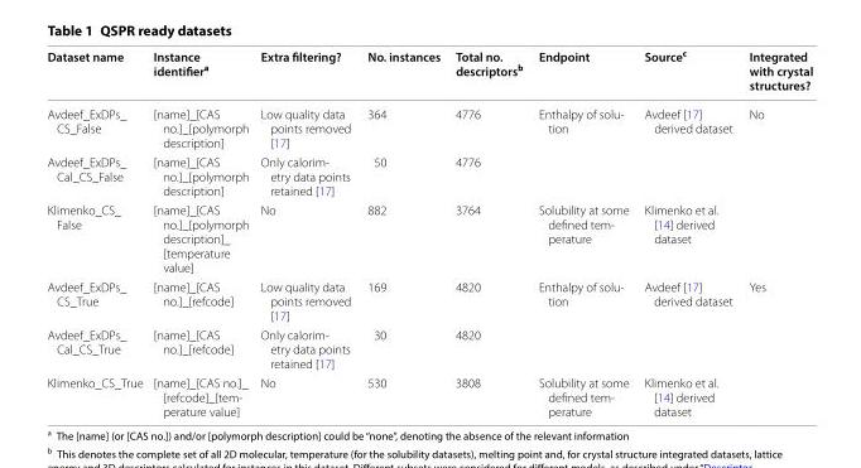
<table><thead><tr><td>Dataset name</td><td>Instance identifier<sup>a</sup></td><td>Extra filtering?</td><td>No. instances</td><td>Total no. descriptors<sup>b</sup></td><td>Endpoint</td><td>Source<sup>c</sup></td><td>Integrated with crystal structures?</td></tr></thead><tbody><tr><td>Avdeef_ExDPs_ CS_False</td><td>[name]_[CAS no.]_[polymorph description]</td><td>Low quality data points removed [17]</td><td>364</td><td>4776</td><td rowspan="2">Enthalpy of solu- tion</td><td rowspan="2">Avdeef [17] derived dataset</td><td rowspan="3">No</td></tr><tr><td>Avdeef_ExDPs_ Cal_CS_False</td><td>[name]_[CAS no.]_[polymorph description]</td><td>Only calorim- etry data points retained [17]</td><td>50</td><td>4776</td></tr><tr><td>Klimenko_CS_ False</td><td>[name]_[CAS no.]_[polymorph description]_ [temperature value]</td><td>No</td><td>882</td><td>3764</td><td>Solubility at some defined tem- perature</td><td>Klimenko et al. [14] derived dataset</td></tr><tr><td>Avdeef_ExDPs_ CS_True</td><td>[name]_[CAS no.]_[refcode]</td><td>Low quality data points removed [17]</td><td>169</td><td>4820</td><td rowspan="2">Enthalpy of solu- tion</td><td rowspan="2">Avdeef [17] derived dataset</td><td rowspan="3">Yes</td></tr><tr><td>Avdeef_ExDPs_ Cal_CS_True</td><td>[name]_[CAS no.]_[refcode]</td><td>Only calorim- etry data points retained [17]</td><td>30</td><td>4820</td></tr><tr><td>Klimenko_CS_True</td><td>[name]_[CAS no.]_ [refcode]_[tem- perature value]</td><td>No</td><td>530</td><td>3808</td><td>Solubility at some defined tem- perature</td><td>Klimenko et al. [14] derived dataset</td></tr></tbody></table>